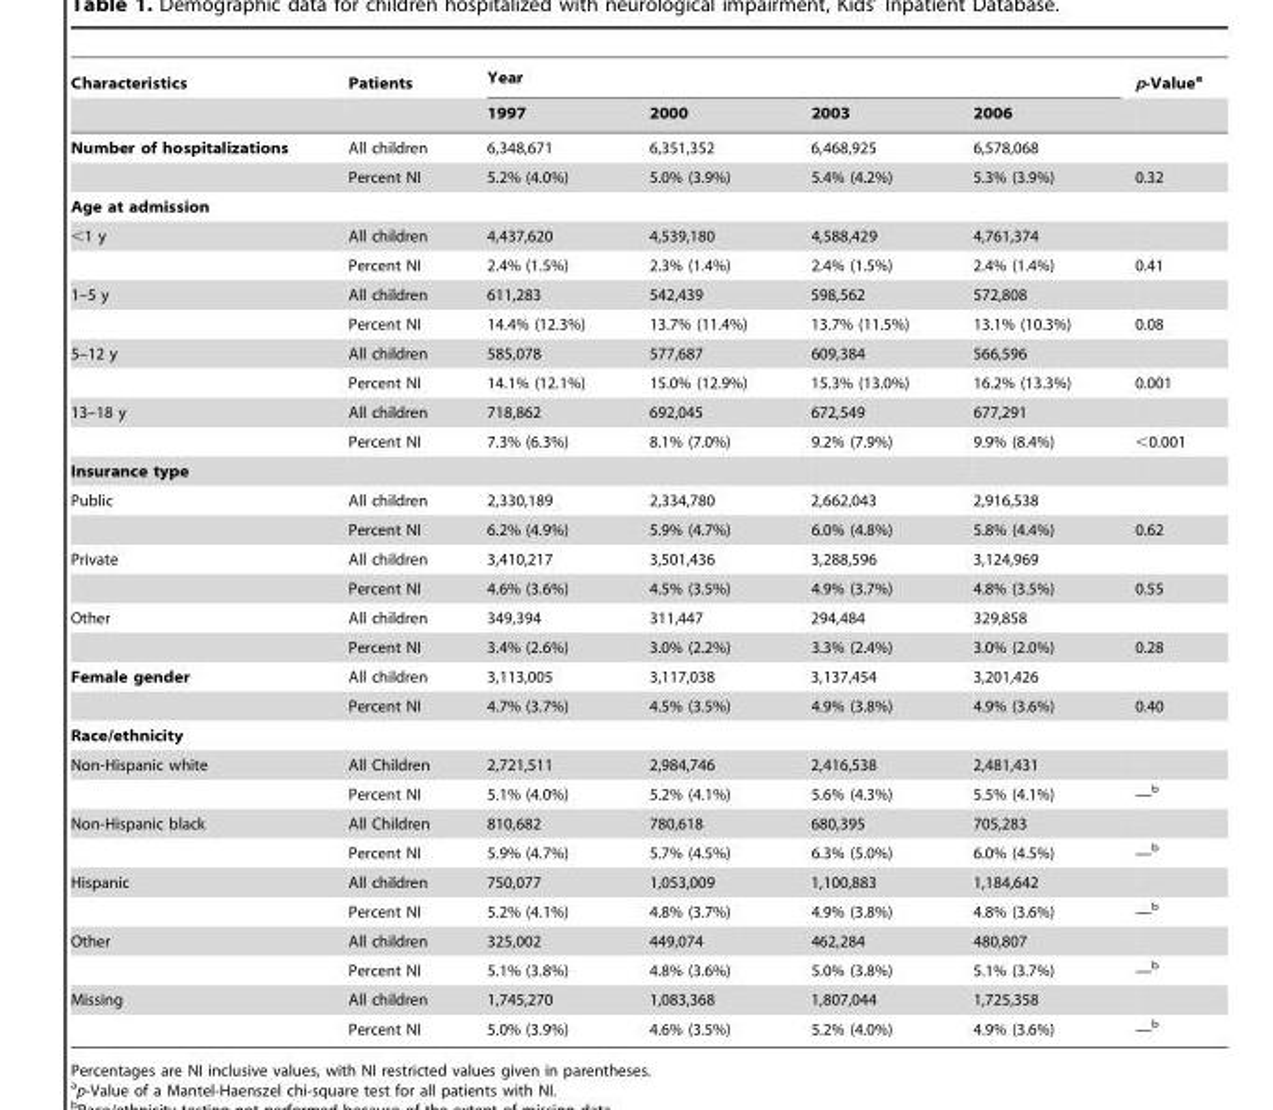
<table><thead><tr><td rowspan="2">Characteristics</td><td rowspan="2">Patients</td><td colspan="4">Year</td><td rowspan="2">p-Value<sup>a</sup></td></tr><tr><td>1997</td><td>2000</td><td>2003</td><td>2006</td></tr></thead><tbody><tr><td rowspan="2">Number of hospitalizations</td><td>All children</td><td>6,348,671</td><td>6,351,352</td><td>6,468,925</td><td>6,578,068</td><td></td></tr><tr><td>Percent NI</td><td>5.2% (4.0%)</td><td>5.0% (3.9%)</td><td>5.4% (4.2%)</td><td>5.3% (3.9%)</td><td>0.32</td></tr><tr><td colspan="7">Age at admission</td></tr><tr><td rowspan="2">&lt;1 y</td><td>All children</td><td>4,437,620</td><td>4,539,180</td><td>4,588,429</td><td>4,761,374</td><td></td></tr><tr><td>Percent NI</td><td>2.4% (1.5%)</td><td>2.3% (1.4%)</td><td>2.4% (1.5%)</td><td>2.4% (1.4%)</td><td>0.41</td></tr><tr><td rowspan="2">1–5 y</td><td>All children</td><td>611,283</td><td>542,439</td><td>598,562</td><td>572,808</td><td></td></tr><tr><td>Percent NI</td><td>14.4% (12.3%)</td><td>13.7% (11.4%)</td><td>13.7% (11.5%)</td><td>13.1% (10.3%)</td><td>0.08</td></tr><tr><td rowspan="2">5–12 y</td><td>All children</td><td>585,078</td><td>577,687</td><td>609,384</td><td>566,596</td><td></td></tr><tr><td>Percent NI</td><td>14.1% (12.1%)</td><td>15.0% (12.9%)</td><td>15.3% (13.0%)</td><td>16.2% (13.3%)</td><td>0.001</td></tr><tr><td rowspan="2">13–18 y</td><td>All children</td><td>718,862</td><td>692,045</td><td>672,549</td><td>677,291</td><td></td></tr><tr><td>Percent NI</td><td>7.3% (6.3%)</td><td>8.1% (7.0%)</td><td>9.2% (7.9%)</td><td>9.9% (8.4%)</td><td>&lt;0.001</td></tr><tr><td colspan="7">Insurance type</td></tr><tr><td rowspan="2">Public</td><td>All children</td><td>2,330,189</td><td>2,334,780</td><td>2,662,043</td><td>2,916,538</td><td></td></tr><tr><td>Percent NI</td><td>6.2% (4.9%)</td><td>5.9% (4.7%)</td><td>6.0% (4.8%)</td><td>5.8% (4.4%)</td><td>0.62</td></tr><tr><td rowspan="2">Private</td><td>All children</td><td>3,410,217</td><td>3,501,436</td><td>3,288,596</td><td>3,124,969</td><td></td></tr><tr><td>Percent NI</td><td>4.6% (3.6%)</td><td>4.5% (3.5%)</td><td>4.9% (3.7%)</td><td>4.8% (3.5%)</td><td>0.55</td></tr><tr><td rowspan="2">Other</td><td>All children</td><td>349,394</td><td>311,447</td><td>294,484</td><td>329,858</td><td></td></tr><tr><td>Percent NI</td><td>3.4% (2.6%)</td><td>3.0% (2.2%)</td><td>3.3% (2.4%)</td><td>3.0% (2.0%)</td><td>0.28</td></tr><tr><td rowspan="2">Female gender</td><td>All children</td><td>3,113,005</td><td>3,117,038</td><td>3,137,454</td><td>3,201,426</td><td></td></tr><tr><td>Percent NI</td><td>4.7% (3.7%)</td><td>4.5% (3.5%)</td><td>4.9% (3.8%)</td><td>4.9% (3.6%)</td><td>0.40</td></tr><tr><td colspan="7">Race/ethnicity</td></tr><tr><td rowspan="2">Non-Hispanic white</td><td>All Children</td><td>2,721,511</td><td>2,984,746</td><td>2,416,538</td><td>2,481,431</td><td></td></tr><tr><td>Percent NI</td><td>5.1% (4.0%)</td><td>5.2% (4.1%)</td><td>5.6% (4.3%)</td><td>5.5% (4.1%)</td><td>—b</td></tr><tr><td rowspan="2">Non-Hispanic black</td><td>All Children</td><td>810,682</td><td>780,618</td><td>680,395</td><td>705,283</td><td></td></tr><tr><td>Percent NI</td><td>5.9% (4.7%)</td><td>5.7% (4.5%)</td><td>6.3% (5.0%)</td><td>6.0% (4.5%)</td><td>—b</td></tr><tr><td rowspan="2">Hispanic</td><td>All children</td><td>750,077</td><td>1,053,009</td><td>1,100,883</td><td>1,184,642</td><td></td></tr><tr><td>Percent NI</td><td>5.2% (4.1%)</td><td>4.8% (3.7%)</td><td>4.9% (3.8%)</td><td>4.8% (3.6%)</td><td>—b</td></tr><tr><td rowspan="2">Other</td><td>All children</td><td>325,002</td><td>449,074</td><td>462,284</td><td>480,807</td><td></td></tr><tr><td>Percent NI</td><td>5.1% (3.8%)</td><td>4.8% (3.6%)</td><td>5.0% (3.8%)</td><td>5.1% (3.7%)</td><td>—b</td></tr><tr><td rowspan="2">Missing</td><td>All children</td><td>1,745,270</td><td>1,083,368</td><td>1,807,044</td><td>1,725,358</td><td></td></tr><tr><td>Percent NI</td><td>5.0% (3.9%)</td><td>4.6% (3.5%)</td><td>5.2% (4.0%)</td><td>4.9% (3.6%)</td><td>—b</td></tr></tbody></table>